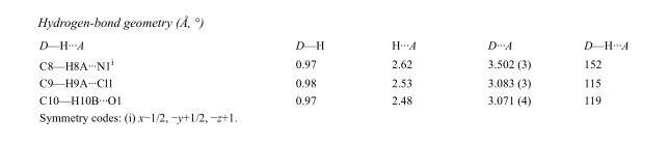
<table><tbody><tr><td>D—H···A</td><td>D—H</td><td>H···A</td><td>D···A</td><td>D—H···A</td></tr><tr><td>C8—H8A···N1<sup>i</sup></td><td>0.97</td><td>2.62</td><td>3.502 (3)</td><td>152</td></tr><tr><td>C9—H9A···Cl1</td><td>0.98</td><td>2.53</td><td>3.083 (3)</td><td>115</td></tr><tr><td>C10—H10B···O1</td><td>0.97</td><td>2.48</td><td>3.071 (4)</td><td>119</td></tr></tbody></table>